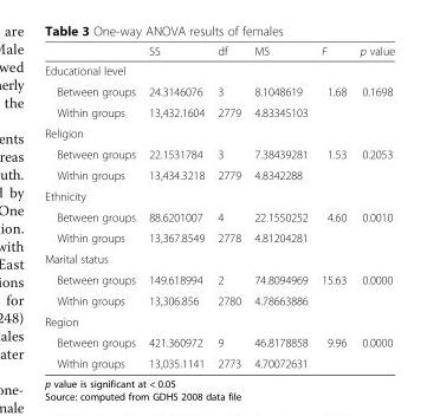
<table><thead><tr><td></td><td>SS</td><td>df</td><td>MS</td><td>F</td><td>p value</td></tr></thead><tbody><tr><td colspan="6">Educational level</td></tr><tr><td>Between groups</td><td>24.3146076</td><td>3</td><td>8.1048619</td><td rowspan="2">1.68</td><td rowspan="2">0.1698</td></tr><tr><td>Within groups</td><td>13,432.1604</td><td>2779</td><td>4.83345103</td></tr><tr><td colspan="6">Religion</td></tr><tr><td>Between groups</td><td>22.1531784</td><td>3</td><td>7.38439281</td><td rowspan="2">1.53</td><td rowspan="2">0.2053</td></tr><tr><td>Within groups</td><td>13,434.3218</td><td>2779</td><td>4.8342288</td></tr><tr><td colspan="6">Ethnicity</td></tr><tr><td>Between groups</td><td>88.6201007</td><td>4</td><td>22.1550252</td><td rowspan="2">4.60</td><td rowspan="2">0.0010</td></tr><tr><td>Within groups</td><td>13,367.8549</td><td>2778</td><td>4.81204281</td></tr><tr><td colspan="6">Marital status</td></tr><tr><td>Between groups</td><td>149.618994</td><td>2</td><td>74.8094969</td><td rowspan="2">15.63</td><td rowspan="2">0.0000</td></tr><tr><td>Within groups</td><td>13,306.856</td><td>2780</td><td>4.78663886</td></tr><tr><td colspan="6">Region</td></tr><tr><td>Between groups</td><td>421.360972</td><td>9</td><td>46.8178858</td><td rowspan="2">9.96</td><td rowspan="2">0.0000</td></tr><tr><td>Within groups</td><td>13,035.1141</td><td>2773</td><td>4.70072631</td></tr></tbody></table>